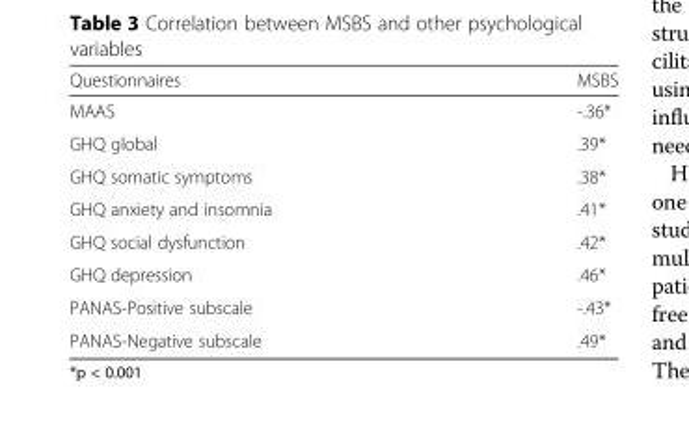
<table><thead><tr><td>Questionnaires</td><td>MSBS</td></tr></thead><tbody><tr><td>MAAS</td><td>-.36*</td></tr><tr><td>GHQ global</td><td>.39*</td></tr><tr><td>GHQ somatic symptoms</td><td>.38*</td></tr><tr><td>GHQ anxiety and insomnia</td><td>.41*</td></tr><tr><td>GHQ social dysfunction</td><td>.42*</td></tr><tr><td>GHQ depression</td><td>.46*</td></tr><tr><td>PANAS-Positive subscale</td><td>-.43*</td></tr><tr><td>PANAS-Negative subscale</td><td>.49*</td></tr></tbody></table>